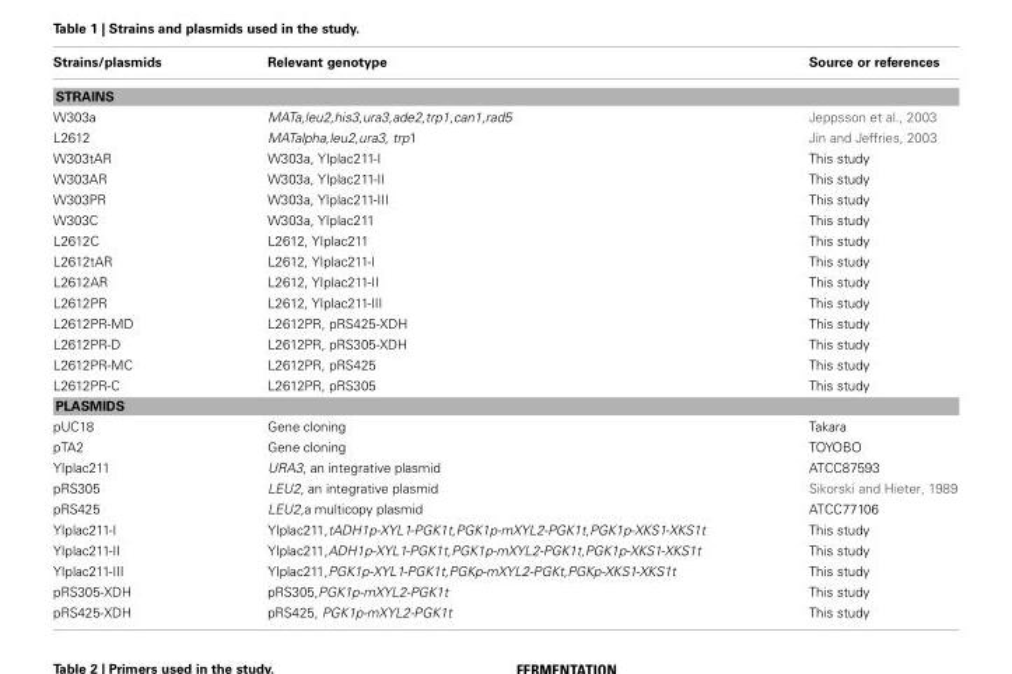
<table><thead><tr><td>Strains/plasmids</td><td>Relevant genotype</td><td>Source or references</td></tr></thead><tbody><tr><td colspan="3">STRAINS</td></tr><tr><td>W303a</td><td>MATa,leu2,his3,ura3,ade2,trp1,can1,rad5</td><td>Jeppsson et al., 2003</td></tr><tr><td>L2612</td><td>MATalpha,leu2,ura3, trp1</td><td>Jin and Jeffries, 2003</td></tr><tr><td>W303tAR</td><td>W303a, YIplac211-I</td><td>This study</td></tr><tr><td>W303AR</td><td>W303a, YIplac211-II</td><td>This study</td></tr><tr><td>W303PR</td><td>W303a, YIplac211-III</td><td>This study</td></tr><tr><td>W303C</td><td>W303a, YIplac211</td><td>This study</td></tr><tr><td>L2612C</td><td>L2612, YIplac211</td><td>This study</td></tr><tr><td>L2612tAR</td><td>L2612, YIplac211-I</td><td>This study</td></tr><tr><td>L2612AR</td><td>L2612, YIplac211-II</td><td>This study</td></tr><tr><td>L2612PR</td><td>L2612, YIplac211-III</td><td>This study</td></tr><tr><td>L2612PR-MD</td><td>L2612PR, pRS425-XDH</td><td>This study</td></tr><tr><td>L2612PR-D</td><td>L2612PR, pRS305-XDH</td><td>This study</td></tr><tr><td>L2612PR-MC</td><td>L2612PR, pRS425</td><td>This study</td></tr><tr><td>L2612PR-C</td><td>L2612PR, pRS305</td><td>This study</td></tr><tr><td colspan="3">PLASMIDS</td></tr><tr><td>pUC18</td><td>Gene cloning</td><td>Takara</td></tr><tr><td>pTA2</td><td>Gene cloning</td><td>TOYOBO</td></tr><tr><td>YIplac211</td><td>URA3, an integrative plasmid</td><td>ATCC87593</td></tr><tr><td>pRS305</td><td>LEU2, an integrative plasmid</td><td>Sikorski and Hieter, 1989</td></tr><tr><td>pRS425</td><td>LEU2,a multicopy plasmid</td><td>ATCC77106</td></tr><tr><td>YIplac211-I</td><td>YIplac211,tADH1p-XYL1-PGK1t,PGK1p-mXYL2-PGK1t,PGK1p-XKS1-XKS1t</td><td>This study</td></tr><tr><td>YIplac211-II</td><td>YIplac211,ADH1p-XYL1-PGK1t,PGK1p-mXYL2-PGK1t,PGK1p-XKS1-XKS1t</td><td>This study</td></tr><tr><td>YIplac211-III</td><td>YIplac211,PGK1p-XYL1-PGK1t,PGKp-mXYL2-PGKt,PGKp-XKS1-XKS1t</td><td>This study</td></tr><tr><td>pRS305-XDH</td><td>pRS305,PGK1p-mXYL2-PGK1t</td><td>This study</td></tr><tr><td>pRS425-XDH</td><td>pRS425, PGK1p-mXYL2-PGK1t</td><td>This study</td></tr></tbody></table>